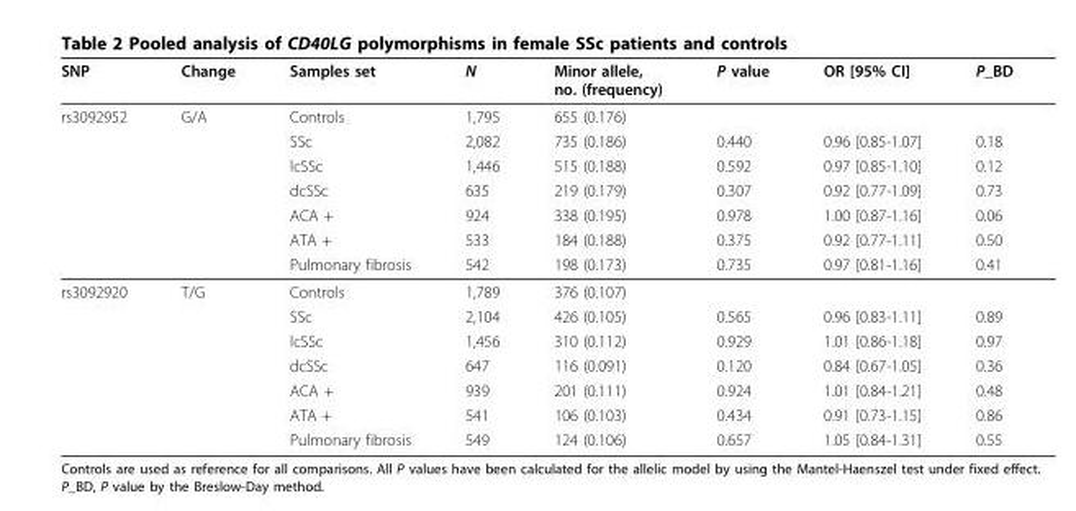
<table><thead><tr><td>SNP</td><td>Change</td><td>Samples set</td><td>N</td><td>Minor allele, no. (frequency)</td><td>P value</td><td>OR [95% CI]</td><td>P_BD</td></tr></thead><tbody><tr><td rowspan="7">rs3092952</td><td>G/A</td><td>Controls</td><td>1,795</td><td>655 (0.176)</td><td></td><td></td><td></td></tr><tr><td></td><td>SSc</td><td>2,082</td><td>735 (0.186)</td><td>0.440</td><td>0.96 [0.85-1.07]</td><td>0.18</td></tr><tr><td></td><td>lcSSc</td><td>1,446</td><td>515 (0.188)</td><td>0.592</td><td>0.97 [0.85-1.10]</td><td>0.12</td></tr><tr><td></td><td>dcSSc</td><td>635</td><td>219 (0.179)</td><td>0.307</td><td>0.92 [0.77-1.09]</td><td>0.73</td></tr><tr><td></td><td>ACA +</td><td>924</td><td>338 (0.195)</td><td>0.978</td><td>1.00 [0.87-1.16]</td><td>0.06</td></tr><tr><td></td><td>ATA +</td><td>533</td><td>184 (0.188)</td><td>0.375</td><td>0.92 [0.77-1.11]</td><td>0.50</td></tr><tr><td></td><td>Pulmonary fibrosis</td><td>542</td><td>198 (0.173)</td><td>0.735</td><td>0.97 [0.81-1.16]</td><td>0.41</td></tr><tr><td rowspan="7">rs3092920</td><td>T/G</td><td>Controls</td><td>1,789</td><td>376 (0.107)</td><td></td><td></td><td></td></tr><tr><td></td><td>SSc</td><td>2,104</td><td>426 (0.105)</td><td>0.565</td><td>0.96 [0.83-1.11]</td><td>0.89</td></tr><tr><td></td><td>lcSSc</td><td>1,456</td><td>310 (0.112)</td><td>0.929</td><td>1.01 [0.86-1.18]</td><td>0.97</td></tr><tr><td></td><td>dcSSc</td><td>647</td><td>116 (0.091)</td><td>0.120</td><td>0.84 [0.67-1.05]</td><td>0.36</td></tr><tr><td></td><td>ACA +</td><td>939</td><td>201 (0.111)</td><td>0.924</td><td>1.01 [0.84-1.21]</td><td>0.48</td></tr><tr><td></td><td>ATA +</td><td>541</td><td>106 (0.103)</td><td>0.434</td><td>0.91 [0.73-1.15]</td><td>0.86</td></tr><tr><td></td><td>Pulmonary fibrosis</td><td>549</td><td>124 (0.106)</td><td>0.657</td><td>1.05 [0.84-1.31]</td><td>0.55</td></tr></tbody></table>